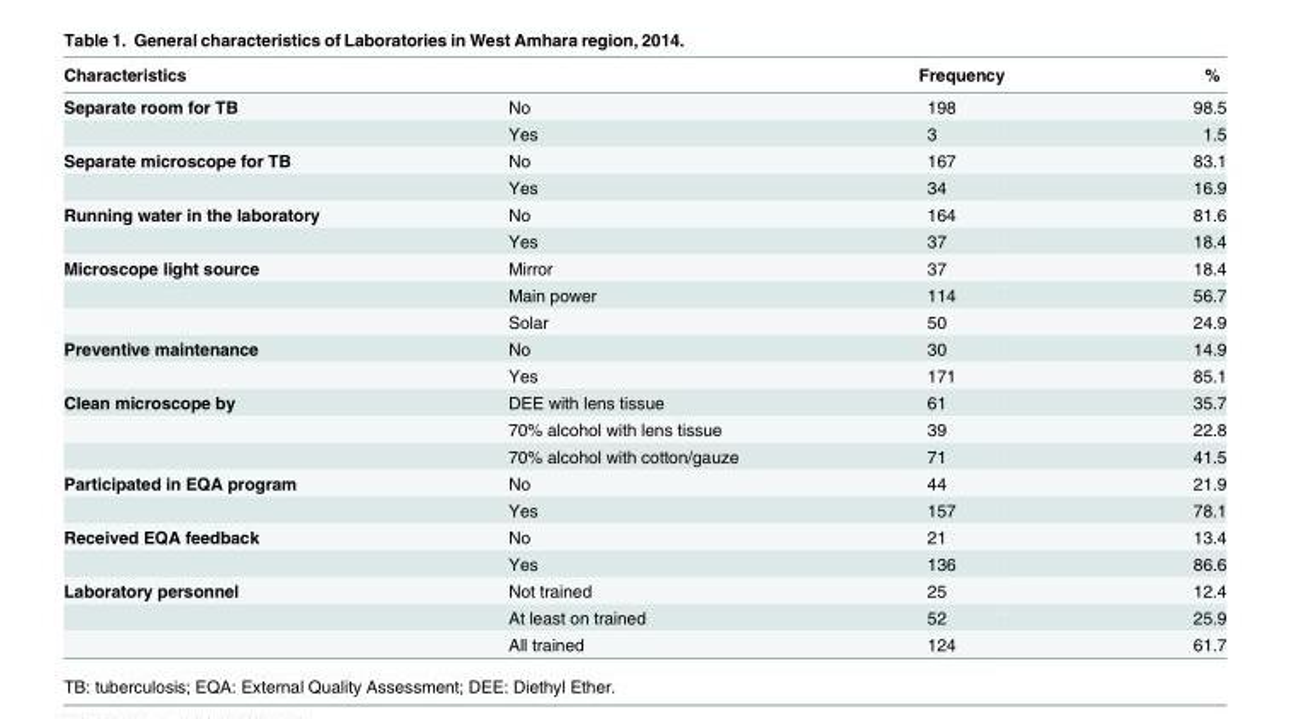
<table><thead><tr><td>Characteristics</td><td></td><td>Frequency</td><td>%</td></tr></thead><tbody><tr><td rowspan="2">Separate room for TB</td><td>No</td><td>198</td><td>98.5</td></tr><tr><td>Yes</td><td>3</td><td>1.5</td></tr><tr><td rowspan="2">Separate microscope for TB</td><td>No</td><td>167</td><td>83.1</td></tr><tr><td>Yes</td><td>34</td><td>16.9</td></tr><tr><td rowspan="2">Running water in the laboratory</td><td>No</td><td>164</td><td>81.6</td></tr><tr><td>Yes</td><td>37</td><td>18.4</td></tr><tr><td rowspan="3">Microscope light source</td><td>Mirror</td><td>37</td><td>18.4</td></tr><tr><td>Main power</td><td>114</td><td>56.7</td></tr><tr><td>Solar</td><td>50</td><td>24.9</td></tr><tr><td rowspan="2">Preventive maintenance</td><td>No</td><td>30</td><td>14.9</td></tr><tr><td>Yes</td><td>171</td><td>85.1</td></tr><tr><td rowspan="3">Clean microscope by</td><td>DEE with lens tissue</td><td>61</td><td>35.7</td></tr><tr><td>70% alcohol with lens tissue</td><td>39</td><td>22.8</td></tr><tr><td>70% alcohol with cotton/gauze</td><td>71</td><td>41.5</td></tr><tr><td rowspan="2">Participated in EQA program</td><td>No</td><td>44</td><td>21.9</td></tr><tr><td>Yes</td><td>157</td><td>78.1</td></tr><tr><td rowspan="2">Received EQA feedback</td><td>No</td><td>21</td><td>13.4</td></tr><tr><td>Yes</td><td>136</td><td>86.6</td></tr><tr><td rowspan="3">Laboratory personnel</td><td>Not trained</td><td>25</td><td>12.4</td></tr><tr><td>At least on trained</td><td>52</td><td>25.9</td></tr><tr><td>All trained</td><td>124</td><td>61.7</td></tr></tbody></table>